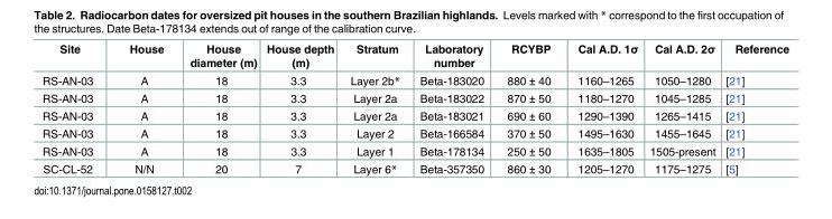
<table><thead><tr><td>Site</td><td>House</td><td>House diameter (m)</td><td>House depth (m)</td><td>Stratum</td><td>Laboratory number</td><td>RCYBP</td><td>Cal A.D. 1σ</td><td>Cal A.D. 2σ</td><td>Reference</td></tr></thead><tbody><tr><td>RS-AN-03</td><td>A</td><td>18</td><td>3.3</td><td>Layer 2b*</td><td>Beta-183020</td><td>880 ± 40</td><td>1160–1265</td><td>1050–1280</td><td>[21]</td></tr><tr><td>RS-AN-03</td><td>A</td><td>18</td><td>3.3</td><td>Layer 2a</td><td>Beta-183022</td><td>870 ± 50</td><td>1180–1270</td><td>1045–1285</td><td>[21]</td></tr><tr><td>RS-AN-03</td><td>A</td><td>18</td><td>3.3</td><td>Layer 2a</td><td>Beta-183021</td><td>690 ± 60</td><td>1290–1390</td><td>1265–1415</td><td>[21]</td></tr><tr><td>RS-AN-03</td><td>A</td><td>18</td><td>3.3</td><td>Layer 2</td><td>Beta-166584</td><td>370 ± 50</td><td>1495–1630</td><td>1455–1645</td><td>[21]</td></tr><tr><td>RS-AN-03</td><td>A</td><td>18</td><td>3.3</td><td>Layer 1</td><td>Beta-178134</td><td>250 ± 50</td><td>1635–1805</td><td>1505-present</td><td>[21]</td></tr><tr><td>SC-CL-52</td><td>N/N</td><td>20</td><td>7</td><td>Layer 6*</td><td>Beta-357350</td><td>860 ± 30</td><td>1205–1270</td><td>1175–1275</td><td>[5]</td></tr></tbody></table>